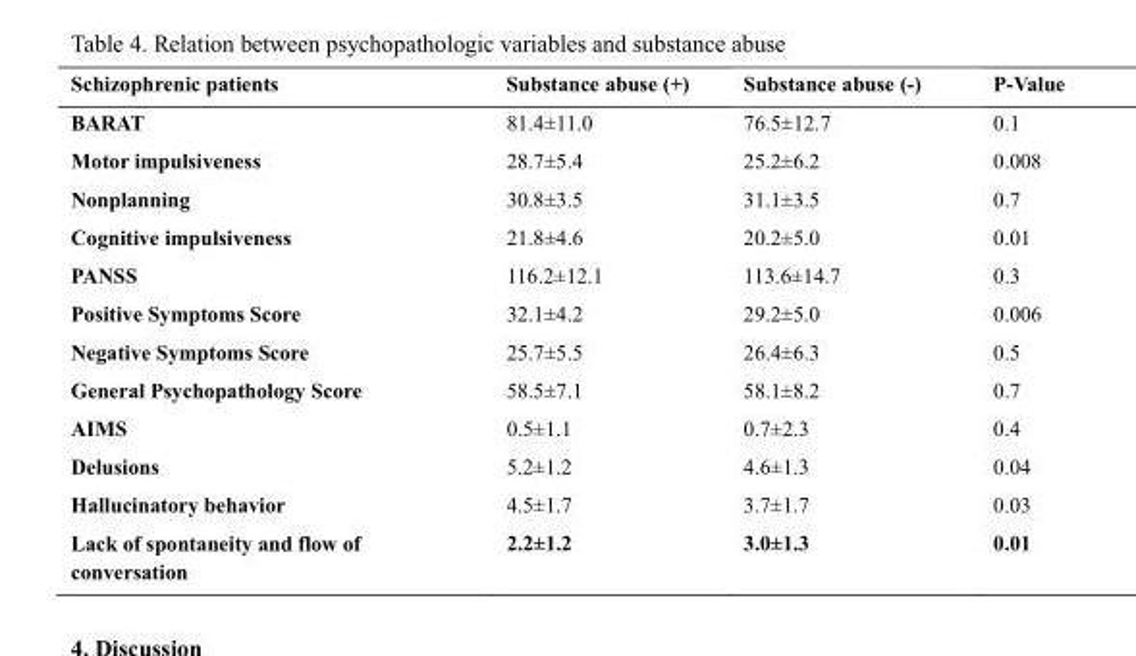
<table><thead><tr><td>Schizophrenic patients</td><td>Substance abuse (+)</td><td>Substance abuse (-)</td><td>P-Value</td></tr></thead><tbody><tr><td>BARAT</td><td>81.4±11.0</td><td>76.5±12.7</td><td>0.1</td></tr><tr><td>Motor impulsiveness</td><td>28.7±5.4</td><td>25.2±6.2</td><td>0.008</td></tr><tr><td>Nonplanning</td><td>30.8±3.5</td><td>31.1±3.5</td><td>0.7</td></tr><tr><td>Cognitive impulsiveness</td><td>21.8±4.6</td><td>20.2±5.0</td><td>0.01</td></tr><tr><td>PANSS</td><td>116.2±12.1</td><td>113.6±14.7</td><td>0.3</td></tr><tr><td>Positive Symptoms Score</td><td>32.1±4.2</td><td>29.2±5.0</td><td>0.006</td></tr><tr><td>Negative Symptoms Score</td><td>25.7±5.5</td><td>26.4±6.3</td><td>0.5</td></tr><tr><td>General Psychopathology Score</td><td>58.5±7.1</td><td>58.1±8.2</td><td>0.7</td></tr><tr><td>AIMS</td><td>0.5±1.1</td><td>0.7±2.3</td><td>0.4</td></tr><tr><td>Delusions</td><td>5.2±1.2</td><td>4.6±1.3</td><td>0.04</td></tr><tr><td>Hallucinatory behavior</td><td>4.5±1.7</td><td>3.7±1.7</td><td>0.03</td></tr><tr><td>Lack of spontaneity and flow of conversation</td><td>2.2±1.2</td><td>3.0±1.3</td><td>0.01</td></tr></tbody></table>